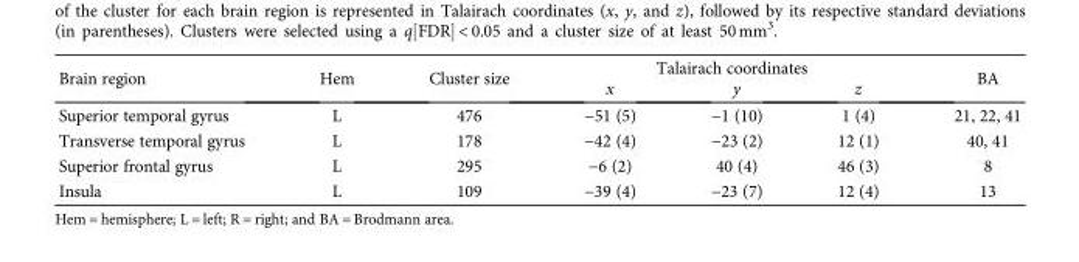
<table><thead><tr><td rowspan="2">Brain region</td><td rowspan="2">Hem</td><td rowspan="2">Cluster size</td><td colspan="3">Talairach coordinates</td><td rowspan="2">BA</td></tr><tr><td>x</td><td>y</td><td>z</td></tr></thead><tbody><tr><td>Superior temporal gyrus</td><td>L</td><td>476</td><td>−51 (5)</td><td>−1 (10)</td><td>1 (4)</td><td>21, 22, 41</td></tr><tr><td>Transverse temporal gyrus</td><td>L</td><td>178</td><td>−42 (4)</td><td>−23 (2)</td><td>12 (1)</td><td>40, 41</td></tr><tr><td>Superior frontal gyrus</td><td>L</td><td>295</td><td>−6 (2)</td><td>40 (4)</td><td>46 (3)</td><td>8</td></tr><tr><td>Insula</td><td>L</td><td>109</td><td>−39 (4)</td><td>−23 (7)</td><td>12 (4)</td><td>13</td></tr></tbody></table>